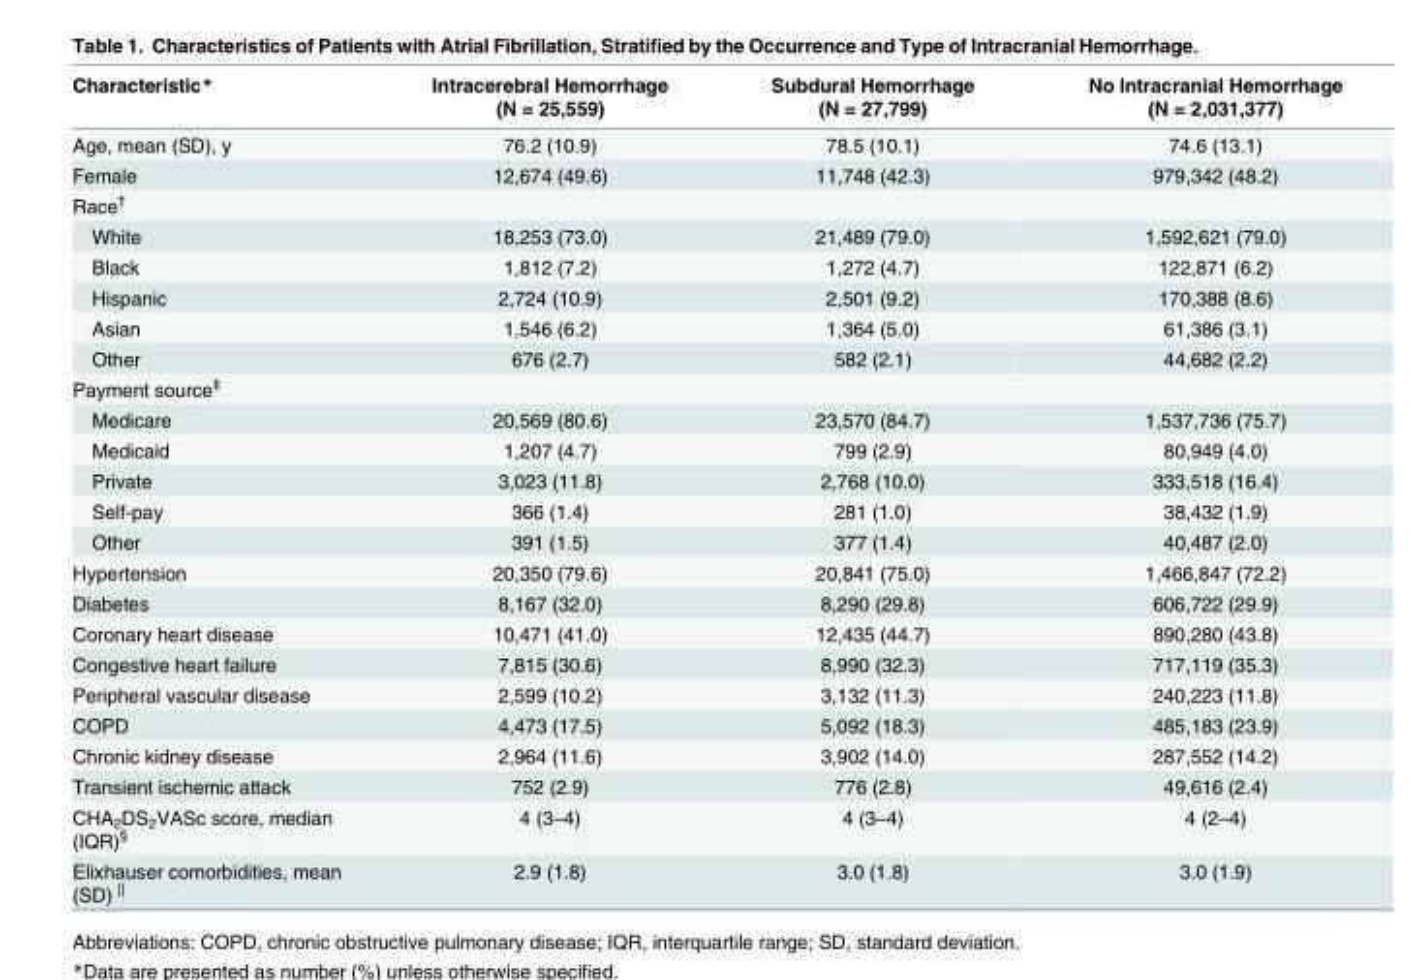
<table><thead><tr><td>Characteristic*</td><td>Intracerebral Hemorrhage (N = 25,559)</td><td>Subdural Hemorrhage (N = 27,799)</td><td>No Intracranial Hemorrhage (N = 2,031,377)</td></tr></thead><tbody><tr><td>Age, mean (SD), y</td><td>76.2 (10.9)</td><td>78.5 (10.1)</td><td>74.6 (13.1)</td></tr><tr><td>Female</td><td>12,674 (49.6)</td><td>11,748 (42.3)</td><td>979,342 (48.2)</td></tr><tr><td colspan="4">Race<sup>†</sup></td></tr><tr><td>White</td><td>18,253 (73.0)</td><td>21,489 (79.0)</td><td>1,592,621 (79.0)</td></tr><tr><td>Black</td><td>1,812 (7.2)</td><td>1,272 (4.7)</td><td>122,871 (6.2)</td></tr><tr><td>Hispanic</td><td>2,724 (10.9)</td><td>2,501 (9.2)</td><td>170,388 (8.6)</td></tr><tr><td>Asian</td><td>1,546 (6.2)</td><td>1,364 (5.0)</td><td>61,386 (3.1)</td></tr><tr><td>Other</td><td>676 (2.7)</td><td>582 (2.1)</td><td>44,682 (2.2)</td></tr><tr><td colspan="4">Payment source<sup>‡</sup></td></tr><tr><td>Medicare</td><td>20,569 (80.6)</td><td>23,570 (84.7)</td><td>1,537,736 (75.7)</td></tr><tr><td>Medicaid</td><td>1,207 (4.7)</td><td>799 (2.9)</td><td>80,949 (4.0)</td></tr><tr><td>Private</td><td>3,023 (11.8)</td><td>2,768 (10.0)</td><td>333,518 (16.4)</td></tr><tr><td>Self-pay</td><td>366 (1.4)</td><td>281 (1.0)</td><td>38,432 (1.9)</td></tr><tr><td>Other</td><td>391 (1.5)</td><td>377 (1.4)</td><td>40,487 (2.0)</td></tr><tr><td>Hypertension</td><td>20,350 (79.6)</td><td>20,841 (75.0)</td><td>1,466,847 (72.2)</td></tr><tr><td>Diabetes</td><td>8,167 (32.0)</td><td>8,290 (29.8)</td><td>606,722 (29.9)</td></tr><tr><td>Coronary heart disease</td><td>10,471 (41.0)</td><td>12,435 (44.7)</td><td>890,280 (43.8)</td></tr><tr><td>Congestive heart failure</td><td>7,815 (30.6)</td><td>8,990 (32.3)</td><td>717,119 (35.3)</td></tr><tr><td>Peripheral vascular disease</td><td>2,599 (10.2)</td><td>3,132 (11.3)</td><td>240,223 (11.8)</td></tr><tr><td>COPD</td><td>4,473 (17.5)</td><td>5,092 (18.3)</td><td>485,183 (23.9)</td></tr><tr><td>Chronic kidney disease</td><td>2,964 (11.6)</td><td>3,902 (14.0)</td><td>287,552 (14.2)</td></tr><tr><td>Transient ischemic attack</td><td>752 (2.9)</td><td>776 (2.8)</td><td>49,616 (2.4)</td></tr><tr><td>CHA<sub>2</sub>DS<sub>2</sub>VASc score, median (IQR)<sup>§</sup></td><td>4 (3–4)</td><td>4 (3–4)</td><td>4 (2–4)</td></tr><tr><td>Elixhauser comorbidities, mean (SD) <sup>||</sup></td><td>2.9 (1.8)</td><td>3.0 (1.8)</td><td>3.0 (1.9)</td></tr></tbody></table>